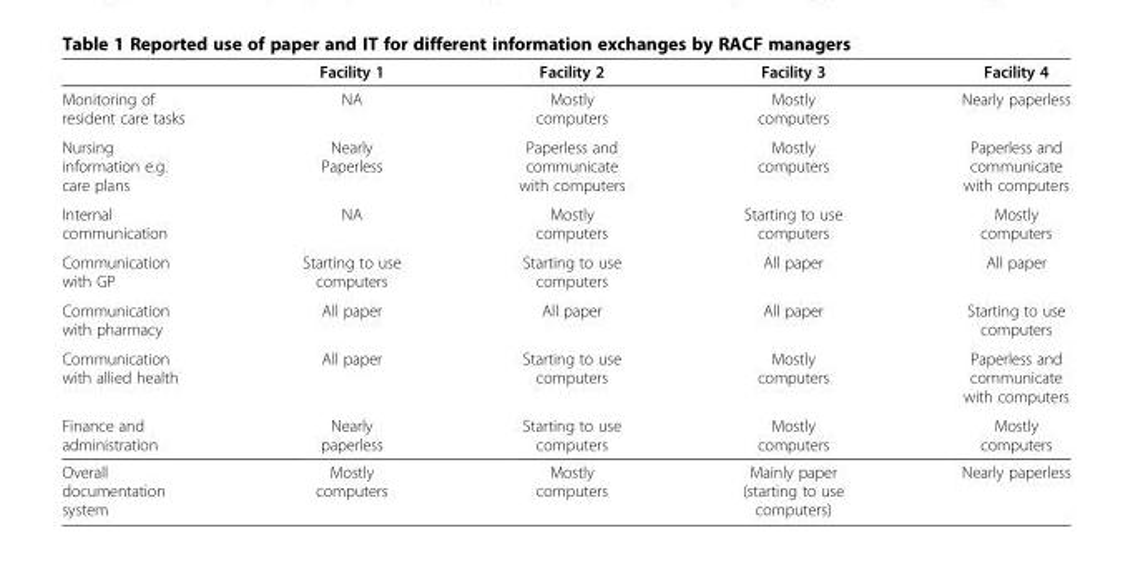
<table><thead><tr><td></td><td>Facility 1</td><td>Facility 2</td><td>Facility 3</td><td>Facility 4</td></tr></thead><tbody><tr><td>Monitoring of resident care tasks</td><td>NA</td><td>Mostly computers</td><td>Mostly computers</td><td>Nearly paperless</td></tr><tr><td>Nursing information e.g. care plans</td><td>Nearly Paperless</td><td>Paperless and communicate with computers</td><td>Mostly computers</td><td>Paperless and communicate with computers</td></tr><tr><td>Internal communication</td><td>NA</td><td>Mostly computers</td><td>Starting to use computers</td><td>Mostly computers</td></tr><tr><td>Communication with GP</td><td>Starting to use computers</td><td>Starting to use computers</td><td>All paper</td><td>All paper</td></tr><tr><td>Communication with pharmacy</td><td>All paper</td><td>All paper</td><td>All paper</td><td>Starting to use computers</td></tr><tr><td>Communication with allied health</td><td>All paper</td><td>Starting to use computers</td><td>Mostly computers</td><td>Paperless and communicate with computers</td></tr><tr><td>Finance and administration</td><td>Nearly paperless</td><td>Starting to use computers</td><td>Mostly computers</td><td>Mostly computers</td></tr><tr><td>Overall documentation system</td><td>Mostly computers</td><td>Mostly computers</td><td>Mainly paper (starting to use computers)</td><td>Nearly paperless</td></tr></tbody></table>